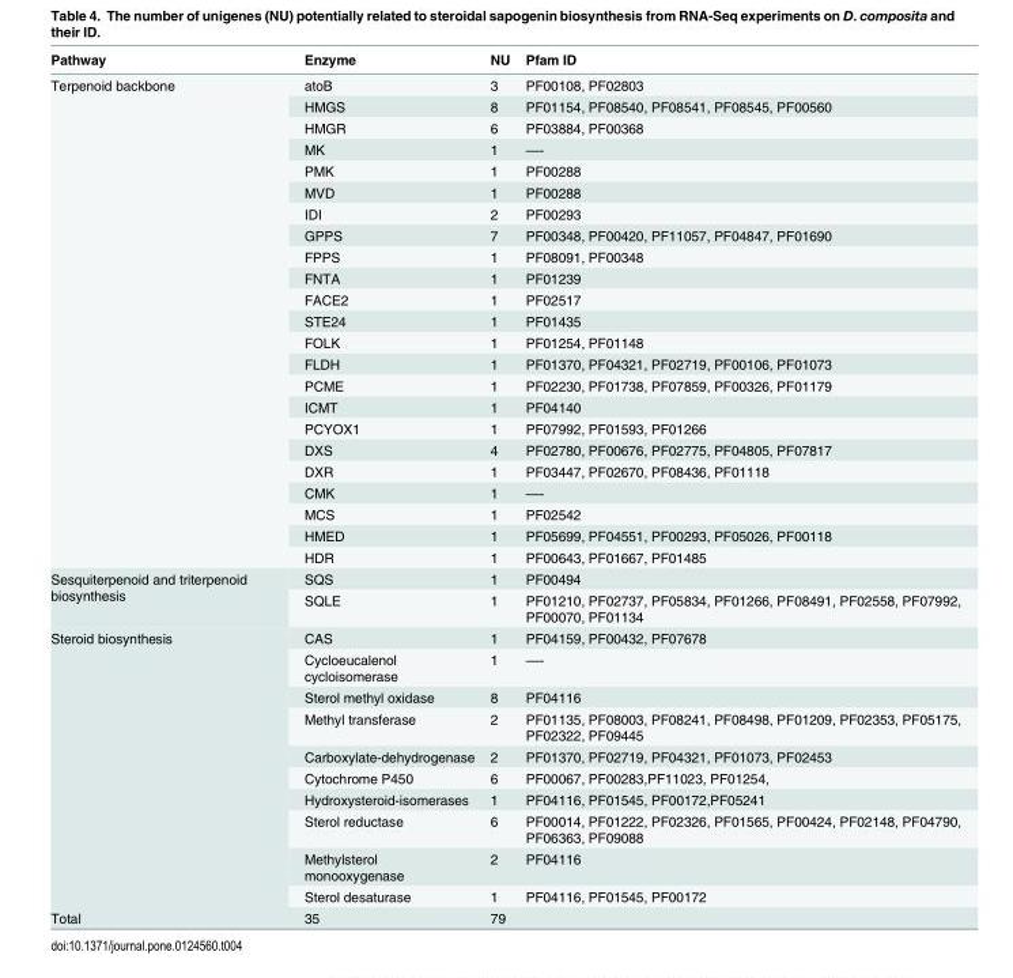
<table><thead><tr><td>Pathway</td><td>Enzyme</td><td>NU</td><td>Pfam ID</td></tr></thead><tbody><tr><td rowspan="23">Terpenoid backbone</td><td>atoB</td><td>3</td><td>PF00108, PF02803</td></tr><tr><td>HMGS</td><td>8</td><td>PF01154, PF08540, PF08541, PF08545, PF00560</td></tr><tr><td>HMGR</td><td>6</td><td>PF03884, PF00368</td></tr><tr><td>MK</td><td>1</td><td>—-</td></tr><tr><td>PMK</td><td>1</td><td>PF00288</td></tr><tr><td>MVD</td><td>1</td><td>PF00288</td></tr><tr><td>IDI</td><td>2</td><td>PF00293</td></tr><tr><td>GPPS</td><td>7</td><td>PF00348, PF00420, PF11057, PF04847, PF01690</td></tr><tr><td>FPPS</td><td>1</td><td>PF08091, PF00348</td></tr><tr><td>FNTA</td><td>1</td><td>PF01239</td></tr><tr><td>FACE2</td><td>1</td><td>PF02517</td></tr><tr><td>STE24</td><td>1</td><td>PF01435</td></tr><tr><td>FOLK</td><td>1</td><td>PF01254, PF01148</td></tr><tr><td>FLDH</td><td>1</td><td>PF01370, PF04321, PF02719, PF00106, PF01073</td></tr><tr><td>PCME</td><td>1</td><td>PF02230, PF01738, PF07859, PF00326, PF01179</td></tr><tr><td>ICMT</td><td>1</td><td>PF04140</td></tr><tr><td>PCYOX1</td><td>1</td><td>PF07992, PF01593, PF01266</td></tr><tr><td>DXS</td><td>4</td><td>PF02780, PF00676, PF02775, PF04805, PF07817</td></tr><tr><td>DXR</td><td>1</td><td>PF03447, PF02670, PF08436, PF01118</td></tr><tr><td>CMK</td><td>1</td><td>—-</td></tr><tr><td>MCS</td><td>1</td><td>PF02542</td></tr><tr><td>HMED</td><td>1</td><td>PF05699, PF04551, PF00293, PF05026, PF00118</td></tr><tr><td>HDR</td><td>1</td><td>PF00643, PF01667, PF01485</td></tr><tr><td rowspan="2">Sesquiterpenoid and triterpenoid biosynthesis</td><td>SQS</td><td>1</td><td>PF00494</td></tr><tr><td>SQLE</td><td>1</td><td>PF01210, PF02737, PF05834, PF01266, PF08491, PF02558, PF07992, PF00070, PF01134</td></tr><tr><td rowspan="10">Steroid biosynthesis</td><td>CAS</td><td>1</td><td>PF04159, PF00432, PF07678</td></tr><tr><td>Cycloeucalenol cycloisomerase</td><td>1</td><td>—-</td></tr><tr><td>Sterol methyl oxidase</td><td>8</td><td>PF04116</td></tr><tr><td>Methyl transferase</td><td>2</td><td>PF01135, PF08003, PF08241, PF08498, PF01209, PF02353, PF05175, PF02322, PF09445</td></tr><tr><td>Carboxylate-dehydrogenase</td><td>2</td><td>PF01370, PF02719, PF04321, PF01073, PF02453</td></tr><tr><td>Cytochrome P450</td><td>6</td><td>PF00067, PF00283,PF11023, PF01254,</td></tr><tr><td>Hydroxysteroid-isomerases</td><td>1</td><td>PF04116, PF01545, PF00172,PF05241</td></tr><tr><td>Sterol reductase</td><td>6</td><td>PF00014, PF01222, PF02326, PF01565, PF00424, PF02148, PF04790, PF06363, PF09088</td></tr><tr><td>Methylsterol monooxygenase</td><td>2</td><td>PF04116</td></tr><tr><td>Sterol desaturase</td><td>1</td><td>PF04116, PF01545, PF00172</td></tr><tr><td>Total</td><td>35</td><td>79</td><td></td></tr></tbody></table>